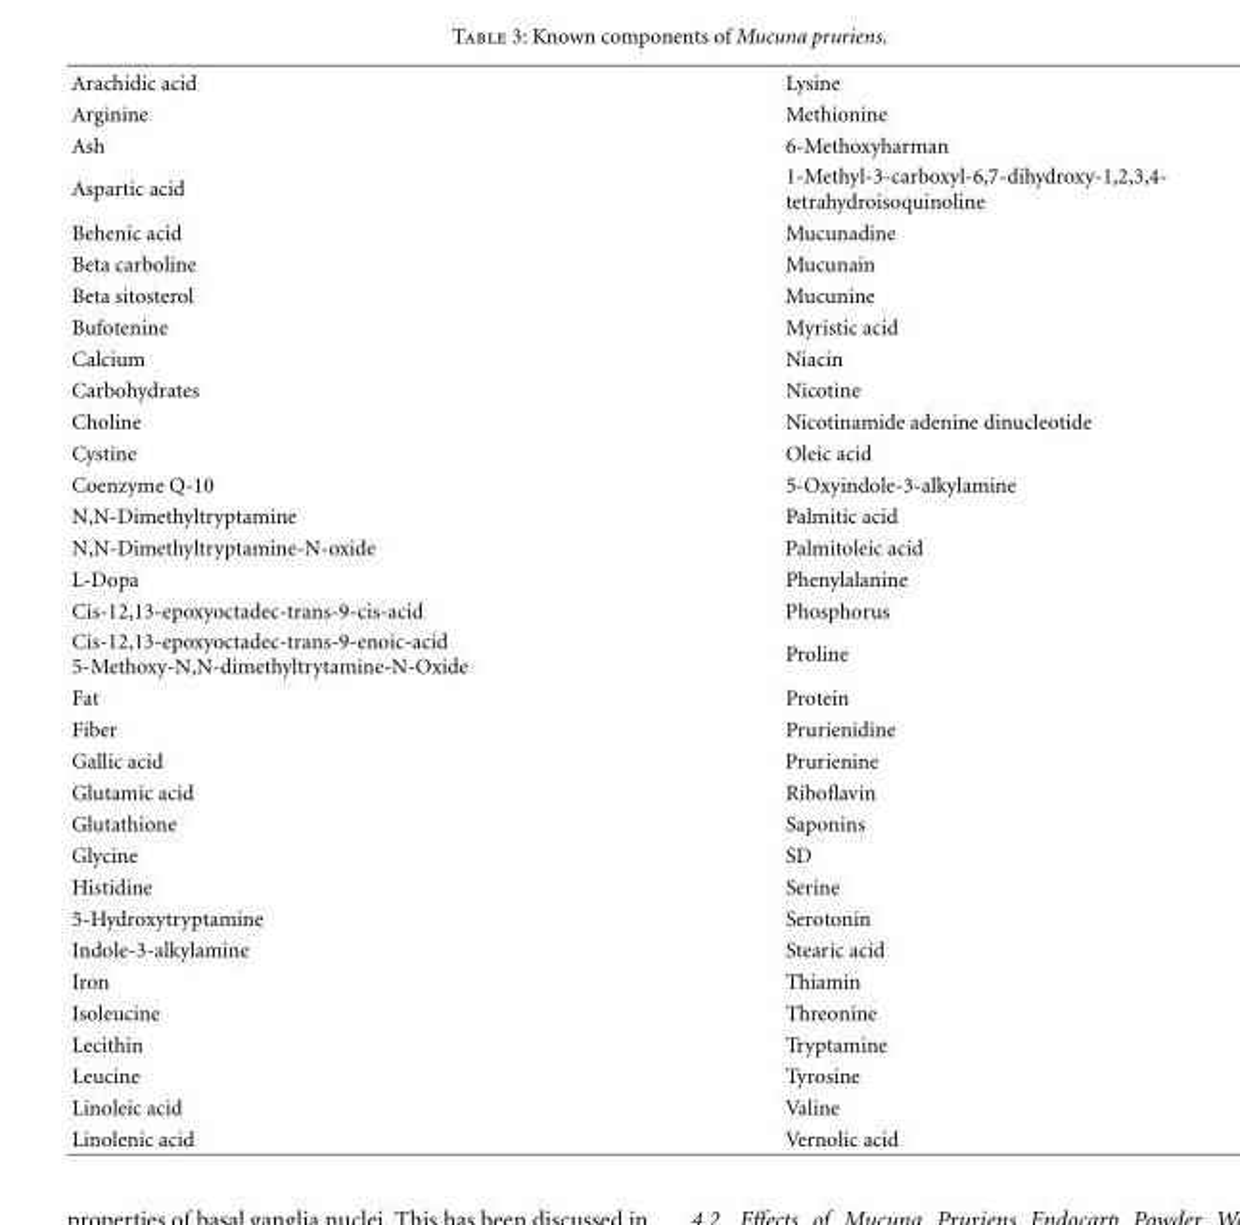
<table><tbody><tr><td>Arachidic acid</td><td>Lysine</td></tr><tr><td>Arginine</td><td>Methionine</td></tr><tr><td>Ash</td><td>6-Methoxyharman</td></tr><tr><td>Aspartic acid</td><td>1-Methyl-3-carboxyl-6,7-dihydroxy-1,2,3,4- tetrahydroisoquinoline</td></tr><tr><td>Behenic acid</td><td>Mucunadine</td></tr><tr><td>Beta carboline</td><td>Mucunain</td></tr><tr><td>Beta sitosterol</td><td>Mucunine</td></tr><tr><td>Bufotenine</td><td>Myristic acid</td></tr><tr><td>Calcium</td><td>Niacin</td></tr><tr><td>Carbohydrates</td><td>Nicotine</td></tr><tr><td>Choline</td><td>Nicotinamide adenine dinucleotide</td></tr><tr><td>Cystine</td><td>Oleic acid</td></tr><tr><td>Coenzyme Q-10</td><td>5-Oxyindole-3-alkylamine</td></tr><tr><td>N,N-Dimethyltryptamine</td><td>Palmitic acid</td></tr><tr><td>N,N-Dimethyltryptamine-N-oxide</td><td>Palmitoleic acid</td></tr><tr><td>L-Dopa</td><td>Phenylalanine</td></tr><tr><td>Cis-12,13-epoxyoctadec-trans-9-cis-acid</td><td>Phosphorus</td></tr><tr><td>Cis-12,13-epoxyoctadec-trans-9-enoic-acid 5-Methoxy-N,N-dimethyltrytamine-N-Oxide</td><td>Proline</td></tr><tr><td>Fat</td><td>Protein</td></tr><tr><td>Fiber</td><td>Prurienidine</td></tr><tr><td>Gallic acid</td><td>Prurienine</td></tr><tr><td>Glutamic acid</td><td>Riboflavin</td></tr><tr><td>Glutathione</td><td>Saponins</td></tr><tr><td>Glycine</td><td>SD</td></tr><tr><td>Histidine</td><td>Serine</td></tr><tr><td>5-Hydroxytryptamine</td><td>Serotonin</td></tr><tr><td>Indole-3-alkylamine</td><td>Stearic acid</td></tr><tr><td>Iron</td><td>Thiamin</td></tr><tr><td>Isoleucine</td><td>Threonine</td></tr><tr><td>Lecithin</td><td>Tryptamine</td></tr><tr><td>Leucine</td><td>Tyrosine</td></tr><tr><td>Linoleic acid</td><td>Valine</td></tr><tr><td>Linolenic acid</td><td>Vernolic acid</td></tr></tbody></table>